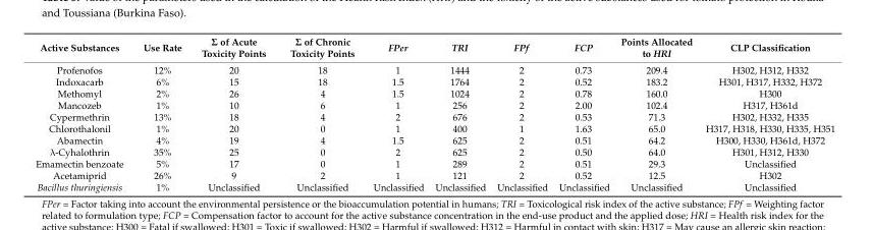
<table><thead><tr><td>Active Substances</td><td>Use Rate</td><td>Σ of Acute Toxicity Points</td><td>Σ of Chronic Toxicity Points</td><td>FPer</td><td>TRI</td><td>FPf</td><td>FCP</td><td>Points Allocated to HRI</td><td>CLP Classification</td></tr></thead><tbody><tr><td>Profenofos</td><td>12%</td><td>20</td><td>18</td><td>1</td><td>1444</td><td>2</td><td>0.73</td><td>209.4</td><td>H302, H312, H332</td></tr><tr><td>Indoxacarb</td><td>6%</td><td>15</td><td>18</td><td>1.5</td><td>1764</td><td>2</td><td>0.52</td><td>183.2</td><td>H301, H317, H332, H372</td></tr><tr><td>Methomyl</td><td>2%</td><td>26</td><td>4</td><td>1.5</td><td>1024</td><td>2</td><td>0.78</td><td>160.0</td><td>H300</td></tr><tr><td>Mancozeb</td><td>1%</td><td>10</td><td>6</td><td>1</td><td>256</td><td>2</td><td>2.00</td><td>102.4</td><td>H317, H361d</td></tr><tr><td>Cypermethrin</td><td>13%</td><td>18</td><td>4</td><td>2</td><td>676</td><td>2</td><td>0.53</td><td>71.3</td><td>H302, H332, H335</td></tr><tr><td>Chlorothalonil</td><td>1%</td><td>20</td><td>0</td><td>1</td><td>400</td><td>1</td><td>1.63</td><td>65.0</td><td>H317, H318, H330, H335, H351</td></tr><tr><td>Abamectin</td><td>4%</td><td>19</td><td>4</td><td>1.5</td><td>625</td><td>2</td><td>0.51</td><td>64.2</td><td>H300, H330, H361d, H372</td></tr><tr><td>λ-Cyhalothrin</td><td>35%</td><td>25</td><td>0</td><td>2</td><td>625</td><td>2</td><td>0.50</td><td>64.0</td><td>H301, H312, H330</td></tr><tr><td>Emamectin benzoate</td><td>5%</td><td>17</td><td>0</td><td>1</td><td>289</td><td>2</td><td>0.51</td><td>29.3</td><td>Unclassified</td></tr><tr><td>Acetamiprid</td><td>26%</td><td>9</td><td>2</td><td>1</td><td>121</td><td>2</td><td>0.52</td><td>12.5</td><td>H302</td></tr><tr><td>Bacillus thuringiensis</td><td>1%</td><td>Unclassified</td><td>Unclassified</td><td>Unclassified</td><td>Unclassified</td><td>Unclassified</td><td>Unclassified</td><td>Unclassified</td><td>Unclassified</td></tr></tbody></table>